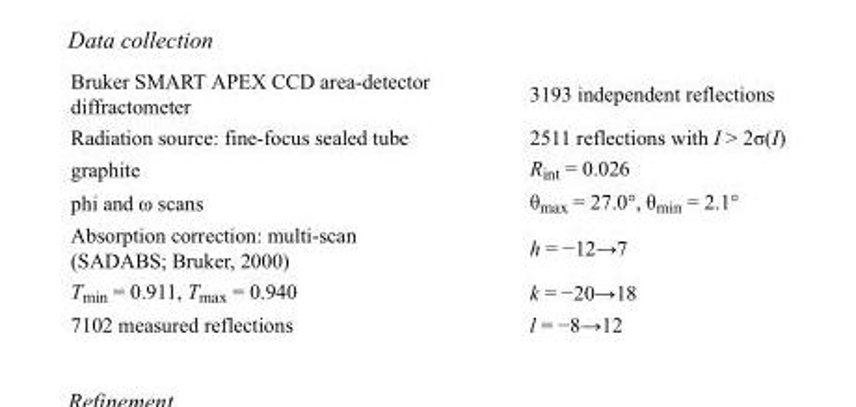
<table><tbody><tr><td>Bruker SMART APEX CCD area-detector diffractometer</td><td>3193 independent reflections</td></tr><tr><td>Radiation source: fine-focus sealed tube</td><td>2511 reflections with I &gt; 2σ(I)</td></tr><tr><td>graphite</td><td>R<sub>int</sub> = 0.026</td></tr><tr><td>phi and ω scans</td><td>θ<sub>max</sub> = 27.0°, θ<sub>min</sub> = 2.1°</td></tr><tr><td>Absorption correction: multi-scan (SADABS; Bruker, 2000)</td><td>h = −12→7</td></tr><tr><td>T<sub>min</sub> = 0.911, T<sub>max</sub> = 0.940</td><td>k = −20→18</td></tr><tr><td>7102 measured reflections</td><td>l = −8→12</td></tr></tbody></table>